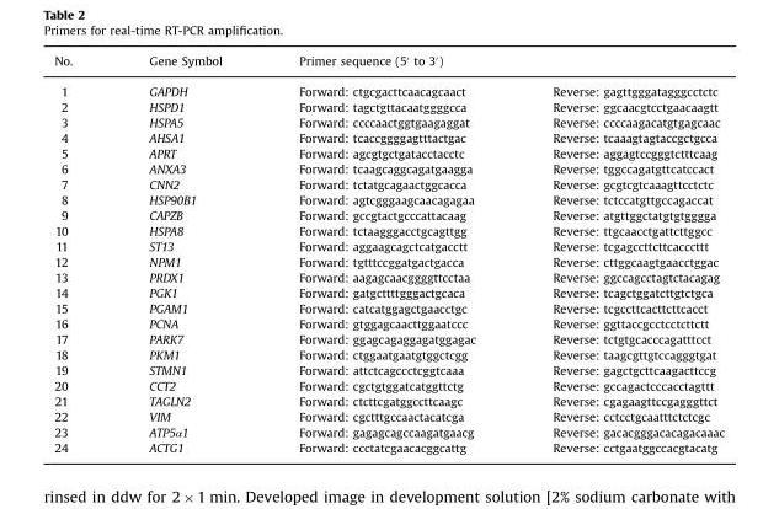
<table><thead><tr><td rowspan="2">No. 1</td><td rowspan="2">Gene Symbol GAPDH</td><td colspan="2">Primer sequence (5′ to 3′)</td></tr><tr><td>Forward: ctgcgacttcaacagcaact</td><td>Reverse: gagttgggatagggcctctc</td></tr></thead><tbody><tr><td>2</td><td>HSPD1</td><td>Forward: tagctgttacaatggggcca</td><td>Reverse: ggcaacgtcctgaacaagtt</td></tr><tr><td>3</td><td>HSPA5</td><td>Forward: ccccaactggtgaagaggat</td><td>Reverse: ccccaagacatgtgagcaac</td></tr><tr><td>4</td><td>AHSA1</td><td>Forward: tcaccggggagtttactgac</td><td>Reverse: tcaaagtagtaccgctgcca</td></tr><tr><td>5</td><td>APRT</td><td>Forward: agcgtgctgatacctacctc</td><td>Reverse: aggagtccgggtctttcaag</td></tr><tr><td>6</td><td>ANXA3</td><td>Forward: tcaagcaggcagatgaagga</td><td>Reverse: tggccagatgttcatccact</td></tr><tr><td>7</td><td>CNN2</td><td>Forward: tctatgcagaactggcacca</td><td>Reverse: gcgtcgtcaaagttcctctc</td></tr><tr><td>8</td><td>HSP90B1</td><td>Forward: agtcgggaagcaacagagaa</td><td>Reverse: tctccatgttgccagaccat</td></tr><tr><td>9</td><td>CAPZB</td><td>Forward: gccgtactgcccattacaag</td><td>Reverse: atgttggctatgtgtgggga</td></tr><tr><td>10</td><td>HSPA8</td><td>Forward: tctaagggacctgcagttgg</td><td>Reverse: ttgcaacctgattcttggcc</td></tr><tr><td>11</td><td>ST13</td><td>Forward: aggaagcagctcatgacctt</td><td>Reverse: tcgagccttcttcacccttt</td></tr><tr><td>12</td><td>NPM1</td><td>Forward: tgtttccggatgactgacca</td><td>Reverse: cttggcaagtgaacctggac</td></tr><tr><td>13</td><td>PRDX1</td><td>Forward: aagagcaacggggttcctaa</td><td>Reverse: ggccagcctagtctacagag</td></tr><tr><td>14</td><td>PGK1</td><td>Forward: gatgcttttgggactgcaca</td><td>Reverse: tcagctggatcttgtctgca</td></tr><tr><td>15</td><td>PGAM1</td><td>Forward: catcatggagctgaacctgc</td><td>Reverse: tcgccttcacttcttcacct</td></tr><tr><td>16</td><td>PCNA</td><td>Forward: gtggagcaacttggaatccc</td><td>Reverse: ggttaccgcctcctcttctt</td></tr><tr><td>17</td><td>PARK7</td><td>Forward: ggagcagaggagatggagac</td><td>Reverse: tctgtgcacccagatttcct</td></tr><tr><td>18</td><td>PKM1</td><td>Forward: ctggaatgaatgtggctcgg</td><td>Reverse: taagcgttgtccagggtgat</td></tr><tr><td>19</td><td>STMN1</td><td>Forward: attctcagccctcggtcaaa</td><td>Reverse: gagctgcttcaagacttccg</td></tr><tr><td>20</td><td>CCT2</td><td>Forward: cgctgtggatcatggttctg</td><td>Reverse: gccagactcccacctagttt</td></tr><tr><td>21</td><td>TAGLN2</td><td>Forward: ctcttcgatggccttcaagc</td><td>Reverse: cgagaagttccgagggttct</td></tr><tr><td>22</td><td>VIM</td><td>Forward: cgctttgccaactacatcga</td><td>Reverse: cctcctgcaatttctctcgc</td></tr><tr><td>23</td><td>ATP5α1</td><td>Forward: gagagcagccaagatgaacg</td><td>Reverse: gacacgggacacagacaaac</td></tr><tr><td>24</td><td>ACTG1</td><td>Forward: ccctatcgaacacggcattg</td><td>Reverse: cctgaatggccacgtacatg</td></tr></tbody></table>